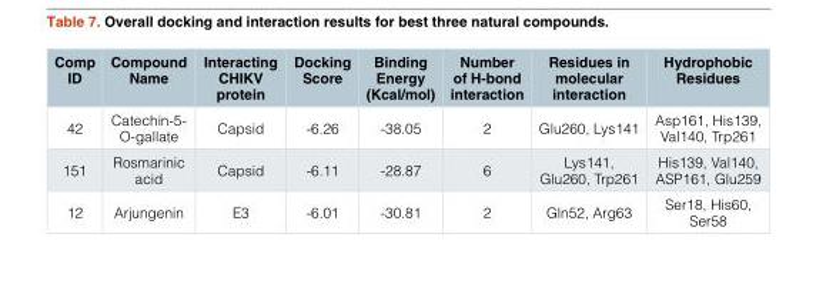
<table><thead><tr><td>Comp ID</td><td>Compound Name</td><td>Interacting CHIKV protein</td><td>Docking Score</td><td>Binding Energy (Kcal/mol)</td><td>Number of H-bond interaction</td><td>Residues in molecular interaction</td><td>Hydrophobic Residues</td></tr></thead><tbody><tr><td>42</td><td>Catechin-5- O-gallate</td><td>Capsid</td><td>-6.26</td><td>-38.05</td><td>2</td><td>Glu260, Lys141</td><td>Asp161, His139, Val140, Trp261</td></tr><tr><td>151</td><td>Rosmarinic acid</td><td>Capsid</td><td>-6.11</td><td>-28.87</td><td>6</td><td>Lys141, Glu260, Trp261</td><td>His139, Val140, ASP161, Glu259</td></tr><tr><td>12</td><td>Arjungenin</td><td>E3</td><td>-6.01</td><td>-30.81</td><td>2</td><td>Gln52, Arg63</td><td>Ser18, His60, Ser58</td></tr></tbody></table>